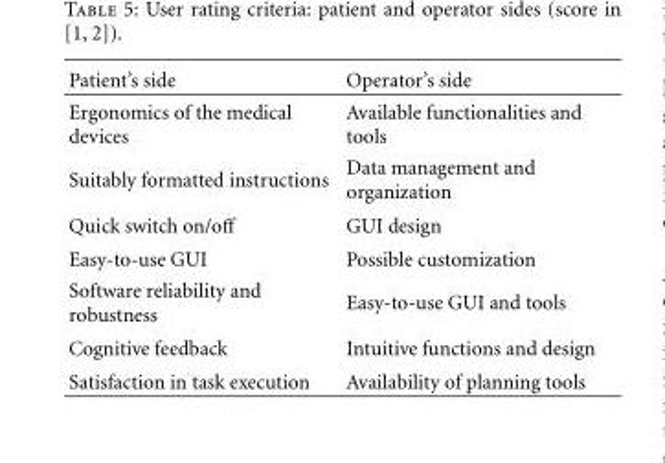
<table><thead><tr><td>Patient’s side</td><td>Operator’s side</td></tr></thead><tbody><tr><td>Ergonomics of the medical devices</td><td>Available functionalities and tools</td></tr><tr><td>Suitably formatted instructions</td><td>Data management and organization</td></tr><tr><td>Quick switch on/off</td><td>GUI design</td></tr><tr><td>Easy-to-use GUI</td><td>Possible customization</td></tr><tr><td>Software reliability and robustness</td><td>Easy-to-use GUI and tools</td></tr><tr><td>Cognitive feedback</td><td>Intuitive functions and design</td></tr><tr><td>Satisfaction in task execution</td><td>Availability of planning tools</td></tr></tbody></table>